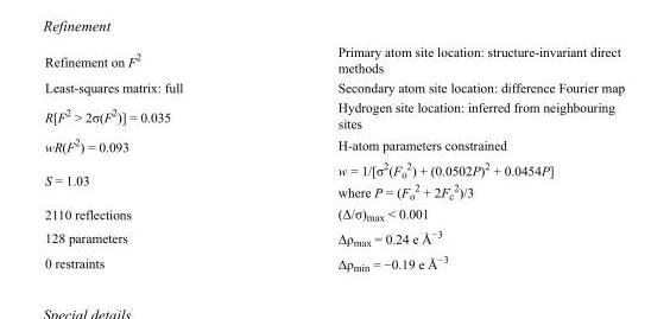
<table><tbody><tr><td>Refinement on F<sup>2</sup></td><td>Primary atom site location: structure-invariant direct methods</td></tr><tr><td>Least-squares matrix: full</td><td>Secondary atom site location: difference Fourier map</td></tr><tr><td>R[F<sup>2</sup> &gt; 2σ(F<sup>2</sup>)] = 0.035</td><td>Hydrogen site location: inferred from neighbouring sites</td></tr><tr><td>wR(F<sup>2</sup>) = 0.093</td><td>H-atom parameters constrained</td></tr><tr><td>S = 1.03</td><td>w = 1/[σ<sup>2</sup>(F<sub>o</sub> <sup>2</sup>) + (0.0502P)<sup>2</sup> + 0.0454P] where P = (F<sub>o</sub> <sup>2</sup> + 2F<sub>c</sub> <sup>2</sup>)/3</td></tr><tr><td>2110 reflections</td><td>(Δ/σ)<sub>max</sub> &lt; 0.001</td></tr><tr><td>128 parameters</td><td>Δρ<sub>max</sub> = 0.24 e Å<sup>−3</sup></td></tr><tr><td>0 restraints</td><td>Δρ<sub>min</sub> = −0.19 e Å<sup>−3</sup></td></tr></tbody></table>